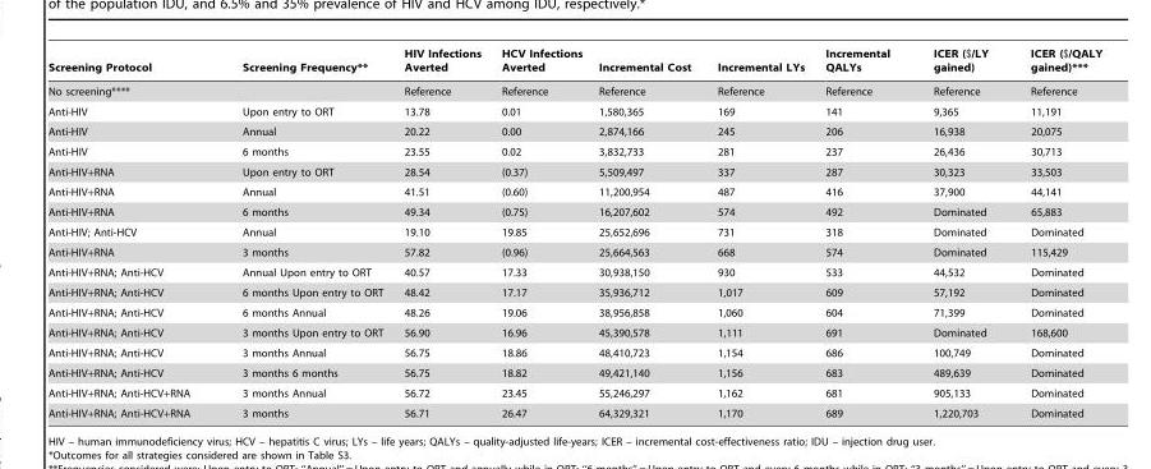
<table><thead><tr><td>Screening Protocol</td><td>Screening Frequency**</td><td>HIV Infections Averted</td><td>HCV Infections Averted</td><td>Incremental Cost</td><td>Incremental LYs</td><td>Incremental QALYs</td><td>ICER ($/LY gained)</td><td>ICER ($/QALY gained)***</td></tr></thead><tbody><tr><td>No screening****</td><td></td><td>Reference</td><td>Reference</td><td>Reference</td><td>Reference</td><td>Reference</td><td>Reference</td><td>Reference</td></tr><tr><td>Anti-HIV</td><td>Upon entry to ORT</td><td>13.78</td><td>0.01</td><td>1,580,365</td><td>169</td><td>141</td><td>9,365</td><td>11,191</td></tr><tr><td>Anti-HIV</td><td>Annual</td><td>20.22</td><td>0.00</td><td>2,874,166</td><td>245</td><td>206</td><td>16,938</td><td>20,075</td></tr><tr><td>Anti-HIV</td><td>6 months</td><td>23.55</td><td>0.02</td><td>3,832,733</td><td>281</td><td>237</td><td>26,436</td><td>30,713</td></tr><tr><td>Anti-HIV+RNA</td><td>Upon entry to ORT</td><td>28.54</td><td>(0.37)</td><td>5,509,497</td><td>337</td><td>287</td><td>30,323</td><td>33,503</td></tr><tr><td>Anti-HIV+RNA</td><td>Annual</td><td>41.51</td><td>(0.60)</td><td>11,200,954</td><td>487</td><td>416</td><td>37,900</td><td>44,141</td></tr><tr><td>Anti-HIV+RNA</td><td>6 months</td><td>49.34</td><td>(0.75)</td><td>16,207,602</td><td>574</td><td>492</td><td>Dominated</td><td>65,883</td></tr><tr><td>Anti-HIV; Anti-HCV</td><td>Annual</td><td>19.10</td><td>19.85</td><td>25,652,696</td><td>731</td><td>318</td><td>Dominated</td><td>Dominated</td></tr><tr><td>Anti-HIV+RNA</td><td>3 months</td><td>57.82</td><td>(0.96)</td><td>25,664,563</td><td>668</td><td>574</td><td>Dominated</td><td>115,429</td></tr><tr><td>Anti-HIV+RNA; Anti-HCV</td><td>Annual Upon entry to ORT</td><td>40.57</td><td>17.33</td><td>30,938,150</td><td>930</td><td>533</td><td>44,532</td><td>Dominated</td></tr><tr><td>Anti-HIV+RNA; Anti-HCV</td><td>6 months Upon entry to ORT</td><td>48.42</td><td>17.17</td><td>35,936,712</td><td>1,017</td><td>609</td><td>57,192</td><td>Dominated</td></tr><tr><td>Anti-HIV+RNA; Anti-HCV</td><td>6 months Annual</td><td>48.26</td><td>19.06</td><td>38,956,858</td><td>1,060</td><td>604</td><td>71,399</td><td>Dominated</td></tr><tr><td>Anti-HIV+RNA; Anti-HCV</td><td>3 months Upon entry to ORT</td><td>56.90</td><td>16.96</td><td>45,390,578</td><td>1,111</td><td>691</td><td>Dominated</td><td>168,600</td></tr><tr><td>Anti-HIV+RNA; Anti-HCV</td><td>3 months Annual</td><td>56.75</td><td>18.86</td><td>48,410,723</td><td>1,154</td><td>686</td><td>100,749</td><td>Dominated</td></tr><tr><td>Anti-HIV+RNA; Anti-HCV</td><td>3 months 6 months</td><td>56.75</td><td>18.82</td><td>49,421,140</td><td>1,156</td><td>683</td><td>489,639</td><td>Dominated</td></tr><tr><td>Anti-HIV+RNA; Anti-HCV+RNA</td><td>3 months Annual</td><td>56.72</td><td>23.45</td><td>55,246,297</td><td>1,162</td><td>681</td><td>905,133</td><td>Dominated</td></tr><tr><td>Anti-HIV+RNA; Anti-HCV+RNA</td><td>3 months</td><td>56.71</td><td>26.47</td><td>64,329,321</td><td>1,170</td><td>689</td><td>1,220,703</td><td>Dominated</td></tr></tbody></table>